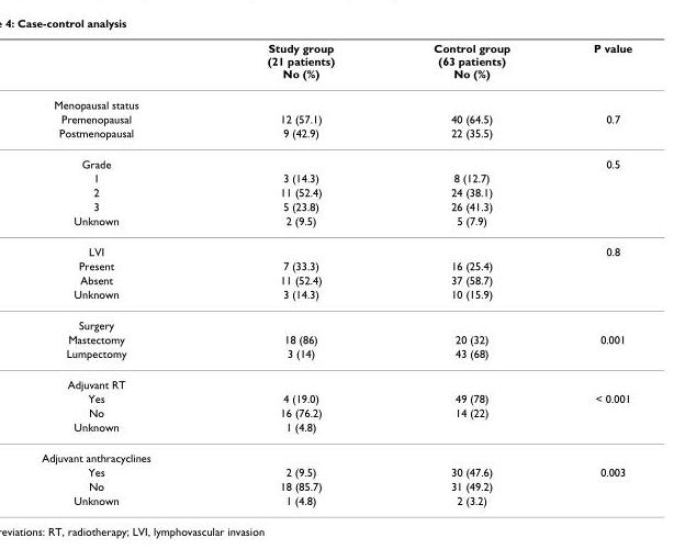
<table><thead><tr><td></td><td>Study group (21 patients) No (%)</td><td>Control group (63 patients) No (%)</td><td>P value</td></tr></thead><tbody><tr><td colspan="4">Menopausal status</td></tr><tr><td>Premenopausal</td><td>12 (57.1)</td><td>40 (64.5)</td><td>0.7</td></tr><tr><td>Postmenopausal</td><td>9 (42.9)</td><td>22 (35.5)</td><td></td></tr><tr><td>Grade</td><td></td><td></td><td>0.5</td></tr><tr><td>1</td><td>3 (14.3)</td><td>8 (12.7)</td><td></td></tr><tr><td>2</td><td>11 (52.4)</td><td>24 (38.1)</td><td></td></tr><tr><td>3</td><td>5 (23.8)</td><td>26 (41.3)</td><td></td></tr><tr><td>Unknown</td><td>2 (9.5)</td><td>5 (7.9)</td><td></td></tr><tr><td>LVI</td><td></td><td></td><td>0.8</td></tr><tr><td>Present</td><td>7 (33.3)</td><td>16 (25.4)</td><td></td></tr><tr><td>Absent</td><td>11 (52.4)</td><td>37 (58.7)</td><td></td></tr><tr><td>Unknown</td><td>3 (14.3)</td><td>10 (15.9)</td><td></td></tr><tr><td colspan="4">Surgery</td></tr><tr><td>Mastectomy</td><td>18 (86)</td><td>20 (32)</td><td>0.001</td></tr><tr><td>Lumpectomy</td><td>3 (14)</td><td>43 (68)</td><td></td></tr><tr><td colspan="4">Adjuvant RT</td></tr><tr><td>Yes</td><td>4 (19.0)</td><td>49 (78)</td><td>&lt; 0.001</td></tr><tr><td>No</td><td>16 (76.2)</td><td>14 (22)</td><td></td></tr><tr><td>Unknown</td><td>1 (4.8)</td><td></td><td></td></tr><tr><td colspan="4">Adjuvant anthracyclines</td></tr><tr><td>Yes</td><td>2 (9.5)</td><td>30 (47.6)</td><td>0.003</td></tr><tr><td>No</td><td>18 (85.7)</td><td>31 (49.2)</td><td></td></tr><tr><td>Unknown</td><td>1 (4.8)</td><td>2 (3.2)</td><td></td></tr></tbody></table>